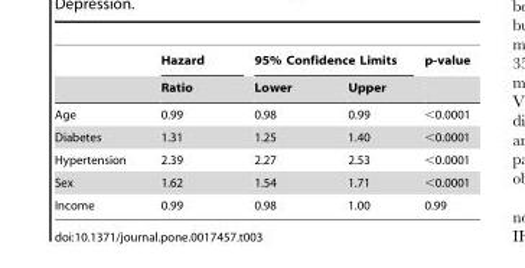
<table><thead><tr><td rowspan="2"></td><td rowspan="2">Hazard Ratio</td><td colspan="2">95% Confidence Limits</td><td rowspan="2">p-value</td></tr><tr><td>Lower</td><td>Upper</td></tr></thead><tbody><tr><td>Age</td><td>0.99</td><td>0.98</td><td>0.99</td><td>&lt;0.0001</td></tr><tr><td>Diabetes</td><td>1.31</td><td>1.25</td><td>1.40</td><td>&lt;0.0001</td></tr><tr><td>Hypertension</td><td>2.39</td><td>2.27</td><td>2.53</td><td>&lt;0.0001</td></tr><tr><td>Sex</td><td>1.62</td><td>1.54</td><td>1.71</td><td>&lt;0.0001</td></tr><tr><td>Income</td><td>0.99</td><td>0.98</td><td>1.00</td><td>0.99</td></tr></tbody></table>